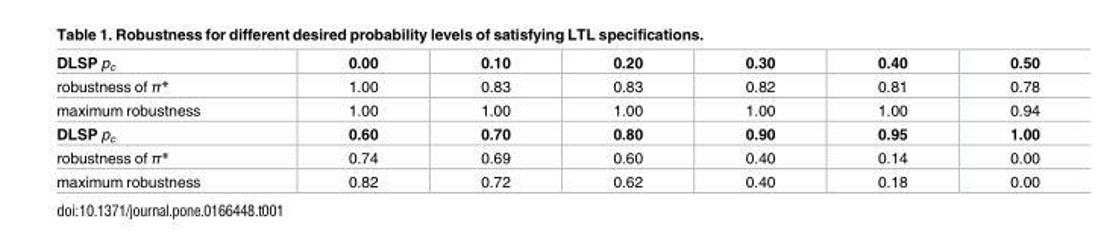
<table><tbody><tr><td>DLSP p<sub>c</sub></td><td>0.00</td><td>0.10</td><td>0.20</td><td>0.30</td><td>0.40</td><td>0.50</td></tr><tr><td>robustness of π*</td><td>1.00</td><td>0.83</td><td>0.83</td><td>0.82</td><td>0.81</td><td>0.78</td></tr><tr><td>maximum robustness</td><td>1.00</td><td>1.00</td><td>1.00</td><td>1.00</td><td>1.00</td><td>0.94</td></tr><tr><td>DLSP p<sub>c</sub></td><td>0.60</td><td>0.70</td><td>0.80</td><td>0.90</td><td>0.95</td><td>1.00</td></tr><tr><td>robustness of π*</td><td>0.74</td><td>0.69</td><td>0.60</td><td>0.40</td><td>0.14</td><td>0.00</td></tr><tr><td>maximum robustness</td><td>0.82</td><td>0.72</td><td>0.62</td><td>0.40</td><td>0.18</td><td>0.00</td></tr></tbody></table>